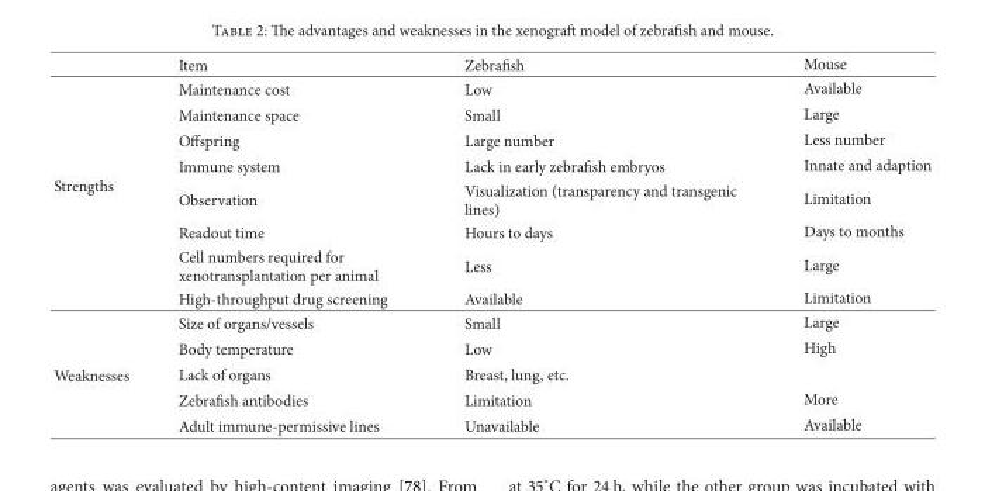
<table><thead><tr><td></td><td>Item</td><td>Zebrafish</td><td>Mouse</td></tr></thead><tbody><tr><td rowspan="8">Strengths</td><td>Maintenance cost</td><td>Low</td><td>Available</td></tr><tr><td>Maintenance space</td><td>Small</td><td>Large</td></tr><tr><td>Offspring</td><td>Large number</td><td>Less number</td></tr><tr><td>Immune system</td><td>Lack in early zebrafish embryos</td><td>Innate and adaption</td></tr><tr><td>Observation</td><td>Visualization (transparency and transgenic lines)</td><td>Limitation</td></tr><tr><td>Readout time</td><td>Hours to days</td><td>Days to months</td></tr><tr><td>Cell numbers required for xenotransplantation per animal</td><td>Less</td><td>Large</td></tr><tr><td>High-throughput drug screening</td><td>Available</td><td>Limitation</td></tr><tr><td rowspan="5">Weaknesses</td><td>Size of organs/vessels</td><td>Small</td><td>Large</td></tr><tr><td>Body temperature</td><td>Low</td><td>High</td></tr><tr><td>Lack of organs</td><td>Breast, lung, etc.</td><td></td></tr><tr><td>Zebrafish antibodies</td><td>Limitation</td><td>More</td></tr><tr><td>Adult immune-permissive lines</td><td>Unavailable</td><td>Available</td></tr></tbody></table>